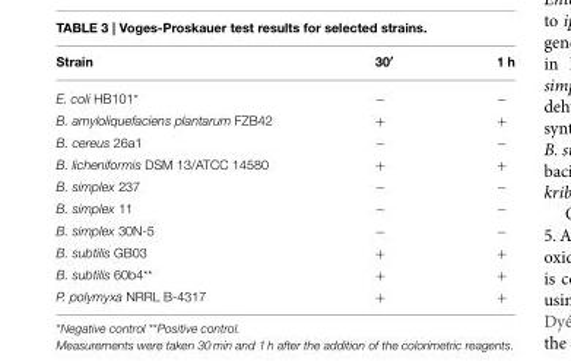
<table><thead><tr><td>Strain</td><td>30′</td><td>1 h</td></tr></thead><tbody><tr><td>E. coli HB101*</td><td>−</td><td>−</td></tr><tr><td>B. amyloliquefaciens plantarum FZB42</td><td>+</td><td>+</td></tr><tr><td>B. cereus 26a1</td><td>−</td><td>−</td></tr><tr><td>B. licheniformis DSM 13/ATCC 14580</td><td>+</td><td>+</td></tr><tr><td>B. simplex 237</td><td>−</td><td>−</td></tr><tr><td>B. simplex 11</td><td>−</td><td>−</td></tr><tr><td>B. simplex 30N-5</td><td>−</td><td>−</td></tr><tr><td>B. subtilis GB03</td><td>+</td><td>+</td></tr><tr><td>B. subtilis 60b4**</td><td>+</td><td>+</td></tr><tr><td>P. polymyxa NRRL B-4317</td><td>+</td><td>+</td></tr></tbody></table>